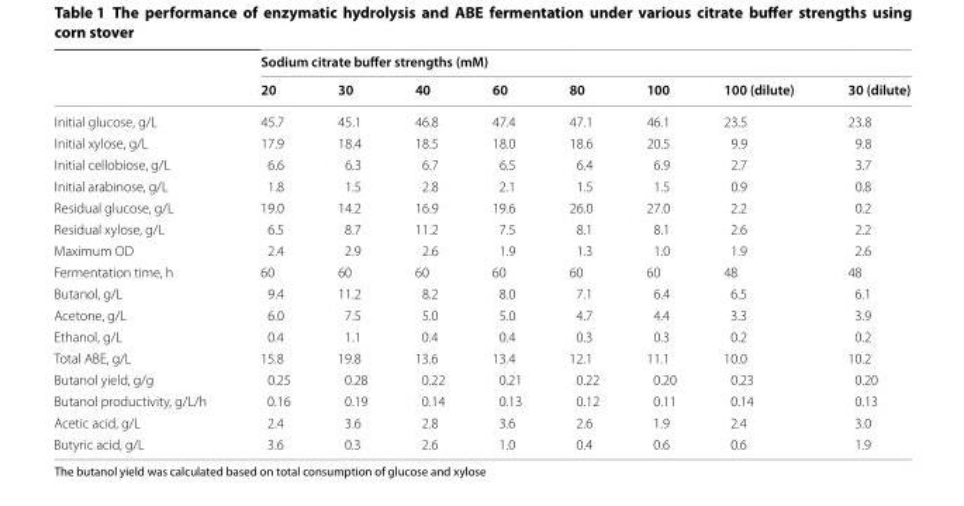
<table><thead><tr><td rowspan="2"></td><td colspan="8">Sodium citrate buffer strengths (mM)</td></tr><tr><td>20</td><td>30</td><td>40</td><td>60</td><td>80</td><td>100</td><td>100 (dilute)</td><td>30 (dilute)</td></tr></thead><tbody><tr><td>Initial glucose, g/L</td><td>45.7</td><td>45.1</td><td>46.8</td><td>47.4</td><td>47.1</td><td>46.1</td><td>23.5</td><td>23.8</td></tr><tr><td>Initial xylose, g/L</td><td>17.9</td><td>18.4</td><td>18.5</td><td>18.0</td><td>18.6</td><td>20.5</td><td>9.9</td><td>9.8</td></tr><tr><td>Initial cellobiose, g/L</td><td>6.6</td><td>6.3</td><td>6.7</td><td>6.5</td><td>6.4</td><td>6.9</td><td>2.7</td><td>3.7</td></tr><tr><td>Initial arabinose, g/L</td><td>1.8</td><td>1.5</td><td>2.8</td><td>2.1</td><td>1.5</td><td>1.5</td><td>0.9</td><td>0.8</td></tr><tr><td>Residual glucose, g/L</td><td>19.0</td><td>14.2</td><td>16.9</td><td>19.6</td><td>26.0</td><td>27.0</td><td>2.2</td><td>0.2</td></tr><tr><td>Residual xylose, g/L</td><td>6.5</td><td>8.7</td><td>11.2</td><td>7.5</td><td>8.1</td><td>8.1</td><td>2.6</td><td>2.2</td></tr><tr><td>Maximum OD</td><td>2.4</td><td>2.9</td><td>2.6</td><td>1.9</td><td>1.3</td><td>1.0</td><td>1.9</td><td>2.6</td></tr><tr><td>Fermentation time, h</td><td>60</td><td>60</td><td>60</td><td>60</td><td>60</td><td>60</td><td>48</td><td>48</td></tr><tr><td>Butanol, g/L</td><td>9.4</td><td>11.2</td><td>8.2</td><td>8.0</td><td>7.1</td><td>6.4</td><td>6.5</td><td>6.1</td></tr><tr><td>Acetone, g/L</td><td>6.0</td><td>7.5</td><td>5.0</td><td>5.0</td><td>4.7</td><td>4.4</td><td>3.3</td><td>3.9</td></tr><tr><td>Ethanol, g/L</td><td>0.4</td><td>1.1</td><td>0.4</td><td>0.4</td><td>0.3</td><td>0.3</td><td>0.2</td><td>0.2</td></tr><tr><td>Total ABE, g/L</td><td>15.8</td><td>19.8</td><td>13.6</td><td>13.4</td><td>12.1</td><td>11.1</td><td>10.0</td><td>10.2</td></tr><tr><td>Butanol yield, g/g</td><td>0.25</td><td>0.28</td><td>0.22</td><td>0.21</td><td>0.22</td><td>0.20</td><td>0.23</td><td>0.20</td></tr><tr><td>Butanol productivity, g/L/h</td><td>0.16</td><td>0.19</td><td>0.14</td><td>0.13</td><td>0.12</td><td>0.11</td><td>0.14</td><td>0.13</td></tr><tr><td>Acetic acid, g/L</td><td>2.4</td><td>3.6</td><td>2.8</td><td>3.6</td><td>2.6</td><td>1.9</td><td>2.4</td><td>3.0</td></tr><tr><td>Butyric acid, g/L</td><td>3.6</td><td>0.3</td><td>2.6</td><td>1.0</td><td>0.4</td><td>0.6</td><td>0.6</td><td>1.9</td></tr></tbody></table>